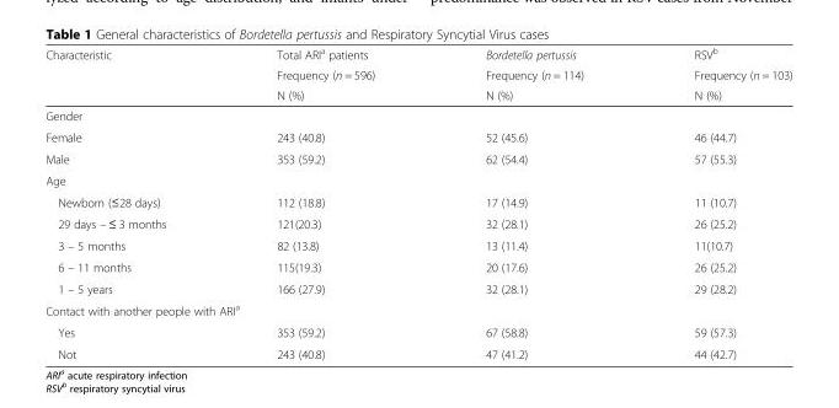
<table><thead><tr><td rowspan="3">Characteristic</td><td rowspan="3">Total ARI<sup>a</sup> patients Frequency (n = 596) N (%)</td><td rowspan="3">Bordetella pertussis Frequency (n = 114) N (%)</td><td rowspan="3">RSV<sup>b</sup> Frequency (n = 103) N (%)</td></tr><tr></tr><tr></tr></thead><tbody><tr><td colspan="4">Gender</td></tr><tr><td>Female</td><td>243 (40.8)</td><td>52 (45.6)</td><td>46 (44.7)</td></tr><tr><td>Male</td><td>353 (59.2)</td><td>62 (54.4)</td><td>57 (55.3)</td></tr><tr><td colspan="4">Age</td></tr><tr><td>Newborn (≤28 days)</td><td>112 (18.8)</td><td>17 (14.9)</td><td>11 (10.7)</td></tr><tr><td>29 days – ≤ 3 months</td><td>121(20.3)</td><td>32 (28.1)</td><td>26 (25.2)</td></tr><tr><td>3 – 5 months</td><td>82 (13.8)</td><td>13 (11.4)</td><td>11(10.7)</td></tr><tr><td>6 – 11 months</td><td>115(19.3)</td><td>20 (17.6)</td><td>26 (25.2)</td></tr><tr><td>1 – 5 years</td><td>166 (27.9)</td><td>32 (28.1)</td><td>29 (28.2)</td></tr><tr><td colspan="4">Contact with another people with ARI<sup>a</sup></td></tr><tr><td>Yes</td><td>353 (59.2)</td><td>67 (58.8)</td><td>59 (57.3)</td></tr><tr><td>Not</td><td>243 (40.8)</td><td>47 (41.2)</td><td>44 (42.7)</td></tr></tbody></table>